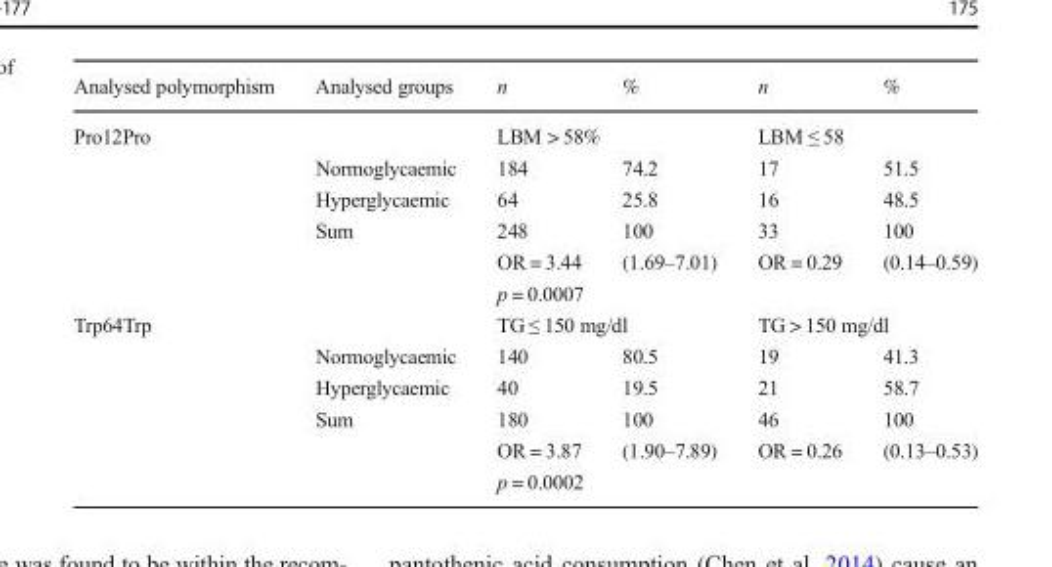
<table><thead><tr><td>Analysed polymorphism</td><td>Analysed groups</td><td>n</td><td>%</td><td>n</td><td>%</td></tr></thead><tbody><tr><td rowspan="6">Pro12Pro</td><td></td><td colspan="2">LBM &gt; 58%</td><td colspan="2">LBM ≤ 58</td></tr><tr><td>Normoglycaemic</td><td>184</td><td>74.2</td><td>17</td><td>51.5</td></tr><tr><td>Hyperglycaemic</td><td>64</td><td>25.8</td><td>16</td><td>48.5</td></tr><tr><td>Sum</td><td>248</td><td>100</td><td>33</td><td>100</td></tr><tr><td rowspan="2"></td><td>OR = 3.44</td><td>(1.69–7.01)</td><td>OR = 0.29</td><td>(0.14–0.59)</td></tr><tr><td colspan="4">p = 0.0007</td></tr><tr><td rowspan="6">Trp64Trp</td><td></td><td colspan="2">TG ≤ 150 mg/dl</td><td colspan="2">TG &gt; 150 mg/dl</td></tr><tr><td>Normoglycaemic</td><td>140</td><td>80.5</td><td>19</td><td>41.3</td></tr><tr><td>Hyperglycaemic</td><td>40</td><td>19.5</td><td>21</td><td>58.7</td></tr><tr><td>Sum</td><td>180</td><td>100</td><td>46</td><td>100</td></tr><tr><td></td><td>OR = 3.87</td><td>(1.90–7.89)</td><td>OR = 0.26</td><td>(0.13–0.53)</td></tr><tr><td></td><td colspan="4">p = 0.0002</td></tr></tbody></table>